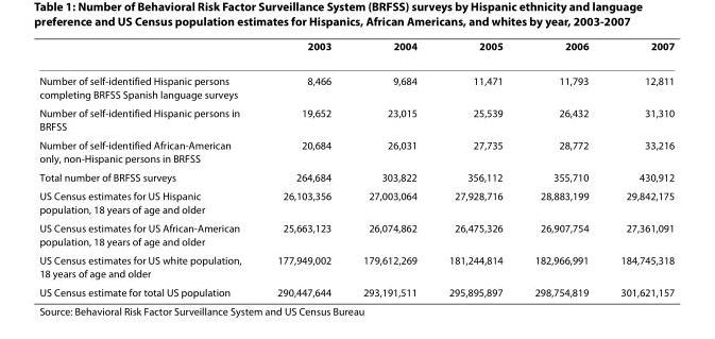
<table><thead><tr><td></td><td>2003</td><td>2004</td><td>2005</td><td>2006</td><td>2007</td></tr></thead><tbody><tr><td>Number of self-identified Hispanic persons completing BRFSS Spanish language surveys</td><td>8,466</td><td>9,684</td><td>11,471</td><td>11,793</td><td>12,811</td></tr><tr><td>Number of self-identified Hispanic persons in BRFSS</td><td>19,652</td><td>23,015</td><td>25,539</td><td>26,432</td><td>31,310</td></tr><tr><td>Number of self-identified African-American only, non-Hispanic persons in BRFSS</td><td>20,684</td><td>26,031</td><td>27,735</td><td>28,772</td><td>33,216</td></tr><tr><td>Total number of BRFSS surveys</td><td>264,684</td><td>303,822</td><td>356,112</td><td>355,710</td><td>430,912</td></tr><tr><td>US Census estimates for US Hispanic population, 18 years of age and older</td><td>26,103,356</td><td>27,003,064</td><td>27,928,716</td><td>28,883,199</td><td>29,842,175</td></tr><tr><td>US Census estimates for US African-American population, 18 years of age and older</td><td>25,663,123</td><td>26,074,862</td><td>26,475,326</td><td>26,907,754</td><td>27,361,091</td></tr><tr><td>US Census estimates for US white population, 18 years of age and older</td><td>177,949,002</td><td>179,612,269</td><td>181,244,814</td><td>182,966,991</td><td>184,745,318</td></tr><tr><td>US Census estimate for total US population</td><td>290,447,644</td><td>293,191,511</td><td>295,895,897</td><td>298,754,819</td><td>301,621,157</td></tr></tbody></table>